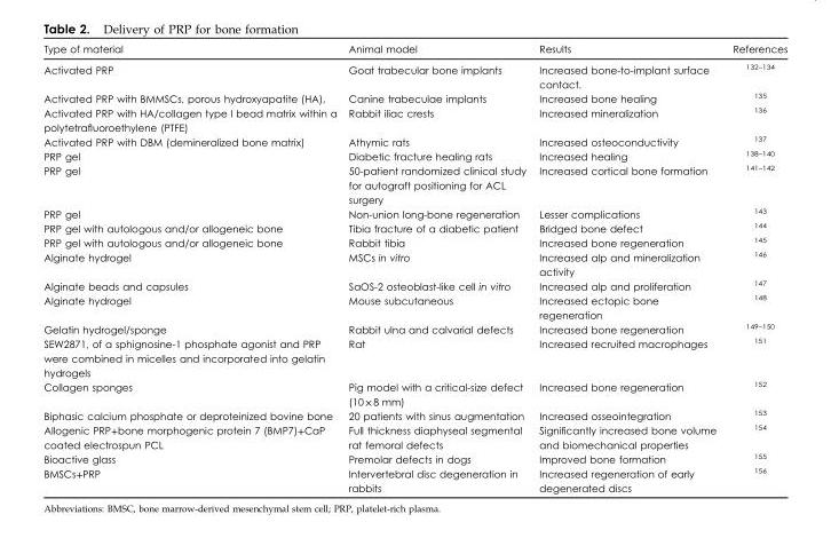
<table><thead><tr><td>Type of material</td><td>Animal model</td><td>Results</td><td>References</td></tr></thead><tbody><tr><td>Activated PRP</td><td>Goat trabecular bone implants</td><td>Increased bone-to-implant surface contact.</td><td><sup>132–134</sup></td></tr><tr><td>Activated PRP with BMMSCs, porous hydroxyapatite (HA),</td><td>Canine trabeculae implants</td><td>Increased bone healing</td><td><sup>135</sup></td></tr><tr><td>Activated PRP with HA/collagen type I bead matrix within a polytetrafluoroethylene (PTFE)</td><td>Rabbit iliac crests</td><td>Increased mineralization</td><td><sup>136</sup></td></tr><tr><td>Activated PRP with DBM (demineralized bone matrix)</td><td>Athymic rats</td><td>Increased osteoconductivity</td><td><sup>137</sup></td></tr><tr><td>PRP gel</td><td>Diabetic fracture healing rats</td><td>Increased healing</td><td><sup>138–140</sup></td></tr><tr><td>PRP gel</td><td>50-patient randomized clinical study for autograft positioning for ACL surgery</td><td>Increased cortical bone formation</td><td>141–142</td></tr><tr><td>PRP gel</td><td>Non-union long-bone regeneration</td><td>Lesser complications</td><td><sup>143</sup></td></tr><tr><td>PRP gel with autologous and/or allogeneic bone</td><td>Tibia fracture of a diabetic patient</td><td>Bridged bone defect</td><td><sup>144</sup></td></tr><tr><td>PRP gel with autologous and/or allogeneic bone</td><td>Rabbit tibia</td><td>Increased bone regeneration</td><td><sup>145</sup></td></tr><tr><td>Alginate hydrogel</td><td>MSCs in vitro</td><td>Increased alp and mineralization activity</td><td><sup>146</sup></td></tr><tr><td>Alginate beads and capsules</td><td>SaOS-2 osteoblast-like cell in vitro</td><td>Increased alp and proliferation</td><td><sup>147</sup></td></tr><tr><td>Alginate hydrogel</td><td>Mouse subcutaneous</td><td>Increased ectopic bone regeneration</td><td><sup>148</sup></td></tr><tr><td>Gelatin hydrogel/sponge</td><td>Rabbit ulna and calvarial defects</td><td>Increased bone regeneration</td><td>149–150</td></tr><tr><td>SEW2871, of a sphignosine-1 phosphate agonist and PRP were combined in micelles and incorporated into gelatin hydrogels</td><td>Rat</td><td>Increased recruited macrophages</td><td><sup>151</sup></td></tr><tr><td>Collagen sponges</td><td>Pig model with a critical-size defect (10 × 8 mm)</td><td>Increased bone regeneration</td><td><sup>152</sup></td></tr><tr><td>Biphasic calcium phosphate or deproteinized bovine bone</td><td>20 patients with sinus augmentation</td><td>Increased osseointegration</td><td><sup>153</sup></td></tr><tr><td>Allogenic PRP+bone morphogenic protein 7 (BMP7)+CaP coated electrospun PCL</td><td>Full thickness diaphyseal segmental rat femoral defects</td><td>Significantly increased bone volume and biomechanical properties</td><td><sup>154</sup></td></tr><tr><td>Bioactive glass</td><td>Premolar defects in dogs</td><td>Improved bone formation</td><td><sup>155</sup></td></tr><tr><td>BMSCs+PRP</td><td>Intervertebral disc degeneration in rabbits</td><td>Increased regeneration of early degenerated discs</td><td><sup>156</sup></td></tr></tbody></table>